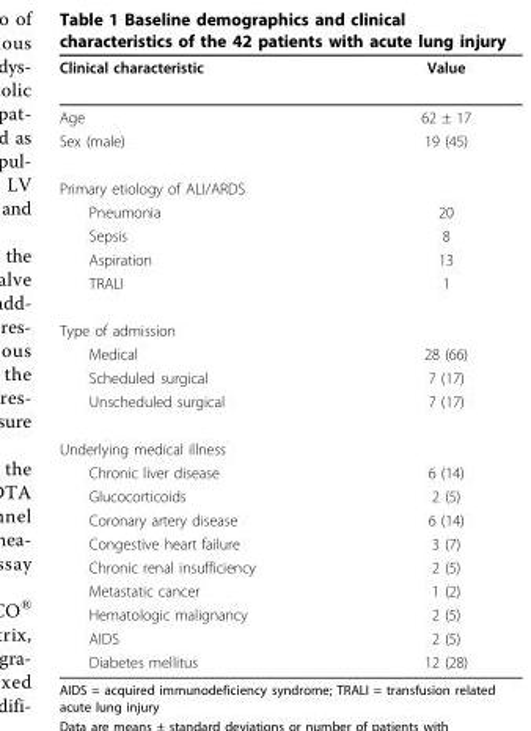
<table><thead><tr><td>Clinical characteristic</td><td>Value</td></tr></thead><tbody><tr><td>Age</td><td>62 ± 17</td></tr><tr><td>Sex (male)</td><td>19 (45)</td></tr><tr><td colspan="2">Primary etiology of ALI/ARDS</td></tr><tr><td>Pneumonia</td><td>20</td></tr><tr><td>Sepsis</td><td>8</td></tr><tr><td>Aspiration</td><td>13</td></tr><tr><td>TRALI</td><td>1</td></tr><tr><td colspan="2">Type of admission</td></tr><tr><td>Medical</td><td>28 (66)</td></tr><tr><td>Scheduled surgical</td><td>7 (17)</td></tr><tr><td>Unscheduled surgical</td><td>7 (17)</td></tr><tr><td colspan="2">Underlying medical illness</td></tr><tr><td>Chronic liver disease</td><td>6 (14)</td></tr><tr><td>Glucocorticoids</td><td>2 (5)</td></tr><tr><td>Coronary artery disease</td><td>6 (14)</td></tr><tr><td>Congestive heart failure</td><td>3 (7)</td></tr><tr><td>Chronic renal insufficiency</td><td>2 (5)</td></tr><tr><td>Metastatic cancer</td><td>1 (2)</td></tr><tr><td>Hematologic malignancy</td><td>2 (5)</td></tr><tr><td>AIDS</td><td>2 (5)</td></tr><tr><td>Diabetes mellitus</td><td>12 (28)</td></tr></tbody></table>